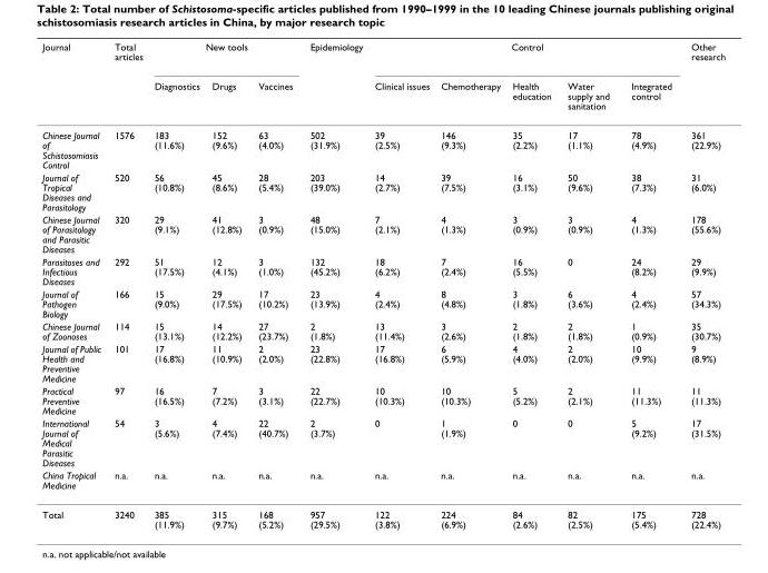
<table><thead><tr><td rowspan="2">Journal</td><td rowspan="2">Total articles</td><td colspan="3">New tools</td><td rowspan="2">Epidemiology</td><td colspan="5">Control</td><td rowspan="2">Other research</td></tr><tr><td>Diagnostics</td><td>Drugs</td><td>Vaccines</td><td>Clinical issues</td><td>Chemotherapy</td><td>Health education</td><td>Water supply and sanitation</td><td>Integrated control</td></tr></thead><tbody><tr><td>Chinese Journal of Schistosomiasis Control</td><td>1576</td><td>183 (11.6%)</td><td>152 (9.6%)</td><td>63 (4.0%)</td><td>502 (31.9%)</td><td>39 (2.5%)</td><td>146 (9.3%)</td><td>35 (2.2%)</td><td>17 (1.1%)</td><td>78 (4.9%)</td><td>361 (22.9%)</td></tr><tr><td>Journal of Tropical Diseases and Parasitology</td><td>520</td><td>56 (10.8%)</td><td>45 (8.6%)</td><td>28 (5.4%)</td><td>203 (39.0%)</td><td>14 (2.7%)</td><td>39 (7.5%)</td><td>16 (3.1%)</td><td>50 (9.6%)</td><td>38 (7.3%)</td><td>31 (6.0%)</td></tr><tr><td>Chinese Journal of Parasitology and Parasitic Diseases</td><td>320</td><td>29 (9.1%)</td><td>41 (12.8%)</td><td>3 (0.9%)</td><td>48 (15.0%)</td><td>7 (2.1%)</td><td>4 (1.3%)</td><td>3 (0.9%)</td><td>3 (0.9%)</td><td>4 (1.3%)</td><td>178 (55.6%)</td></tr><tr><td>Parasitoses and Infectious Diseases</td><td>292</td><td>51 (17.5%)</td><td>12 (4.1%)</td><td>3 (1.0%)</td><td>132 (45.2%)</td><td>18 (6.2%)</td><td>7 (2.4%)</td><td>16 (5.5%)</td><td>0</td><td>24 (8.2%)</td><td>29 (9.9%)</td></tr><tr><td>Journal of Pathogen Biology</td><td>166</td><td>15 (9.0%)</td><td>29 (17.5%)</td><td>17 (10.2%)</td><td>23 (13.9%)</td><td>4 (2.4%)</td><td>8 (4.8%)</td><td>3 (1.8%)</td><td>6 (3.6%)</td><td>4 (2.4%)</td><td>57 (34.3%)</td></tr><tr><td>Chinese Journal of Zoonoses</td><td>114</td><td>15 (13.1%)</td><td>14 (12.2%)</td><td>27 (23.7%)</td><td>2 (1.8%)</td><td>13 (11.4%)</td><td>3 (2.6%)</td><td>2 (1.8%)</td><td>2 (1.8%)</td><td>1 (0.9%)</td><td>35 (30.7%)</td></tr><tr><td>Journal of Public Health and Preventive Medicine</td><td>101</td><td>17 (16.8%)</td><td>11 (10.9%)</td><td>2 (2.0%)</td><td>23 (22.8%)</td><td>17 (16.8%)</td><td>6 (5.9%)</td><td>4 (4.0%)</td><td>2 (2.0%)</td><td>10 (9.9%)</td><td>9 (8.9%)</td></tr><tr><td>Practical Preventive Medicine</td><td>97</td><td>16 (16.5%)</td><td>7 (7.2%)</td><td>3 (3.1%)</td><td>22 (22.7%)</td><td>10 (10.3%)</td><td>10 (10.3%)</td><td>5 (5.2%)</td><td>2 (2.1%)</td><td>11 (11.3%)</td><td>11 (11.3%)</td></tr><tr><td>International Journal of Medical Parasitic Diseases</td><td>54</td><td>3 (5.6%)</td><td>4 (7.4%)</td><td>22 (40.7%)</td><td>2 (3.7%)</td><td>0</td><td>1 (1.9%)</td><td>0</td><td>0</td><td>5 (9.2%)</td><td>17 (31.5%)</td></tr><tr><td>China Tropical Medicine</td><td>n.a.</td><td>n.a.</td><td>n.a.</td><td>n.a.</td><td>n.a.</td><td>n.a.</td><td>n.a.</td><td>n.a.</td><td>n.a.</td><td>n.a.</td><td>n.a.</td></tr><tr><td>Total</td><td>3240</td><td>385 (11.9%)</td><td>315 (9.7%)</td><td>168 (5.2%)</td><td>957 (29.5%)</td><td>122 (3.8%)</td><td>224 (6.9%)</td><td>84 (2.6%)</td><td>82 (2.5%)</td><td>175 (5.4%)</td><td>728 (22.4%)</td></tr></tbody></table>